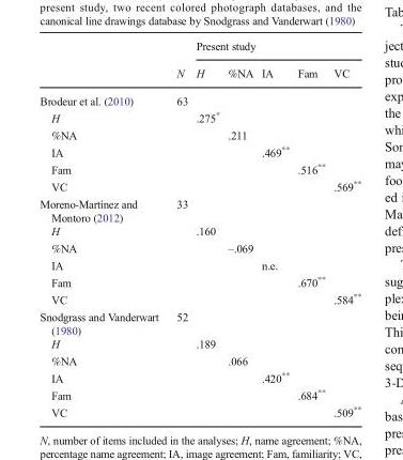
<table><thead><tr><td rowspan="2"></td><td rowspan="2">N</td><td colspan="5">Present study</td></tr><tr><td>H</td><td>%NA</td><td>IA</td><td>Fam</td><td>VC</td></tr></thead><tbody><tr><td>Brodeur et al. (2010)</td><td>63</td><td></td><td></td><td></td><td></td><td></td></tr><tr><td>H</td><td></td><td>.275*</td><td></td><td></td><td></td><td></td></tr><tr><td>%NA</td><td></td><td></td><td>.211</td><td></td><td></td><td></td></tr><tr><td>IA</td><td></td><td></td><td></td><td>.469**</td><td></td><td></td></tr><tr><td>Fam</td><td></td><td></td><td></td><td></td><td>.516**</td><td></td></tr><tr><td>VC</td><td></td><td></td><td></td><td></td><td></td><td>.569**</td></tr><tr><td>Moreno-Martínez and Montoro (2012)</td><td>33</td><td></td><td></td><td></td><td></td><td></td></tr><tr><td>H</td><td></td><td>.160</td><td></td><td></td><td></td><td></td></tr><tr><td>%NA</td><td></td><td></td><td>–.069</td><td></td><td></td><td></td></tr><tr><td>IA</td><td></td><td></td><td></td><td>n.e.</td><td></td><td></td></tr><tr><td>Fam</td><td></td><td></td><td></td><td></td><td>.670**</td><td></td></tr><tr><td>VC</td><td></td><td></td><td></td><td></td><td></td><td>.584**</td></tr><tr><td>Snodgrass and Vanderwart (1980)</td><td>52</td><td></td><td></td><td></td><td></td><td></td></tr><tr><td>H</td><td></td><td>.189</td><td></td><td></td><td></td><td></td></tr><tr><td>%NA</td><td></td><td></td><td>.066</td><td></td><td></td><td></td></tr><tr><td>IA</td><td></td><td></td><td></td><td>.420**</td><td></td><td></td></tr><tr><td>Fam</td><td></td><td></td><td></td><td></td><td>.684**</td><td></td></tr><tr><td>VC</td><td></td><td></td><td></td><td></td><td></td><td>.509**</td></tr></tbody></table>